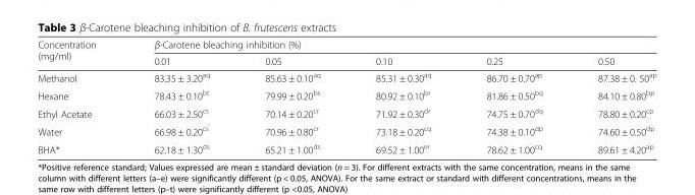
<table><thead><tr><td rowspan="2">Concentration (mg/ml)</td><td colspan="5">β-Carotene bleaching inhibition (%)</td></tr><tr><td>0.01</td><td>0.05</td><td>0.10</td><td>0.25</td><td>0.50</td></tr></thead><tbody><tr><td>Methanol</td><td>83.35 ± 3.20<sup>aq</sup></td><td>85.63 ± 0.10<sup>aq</sup></td><td>85.31 ± 0.30<sup>aq</sup></td><td>86.70 ± 0.70<sup>ap</sup></td><td>87.38 ± 0. 50<sup>ap</sup></td></tr><tr><td>Hexane</td><td>78.43 ± 0.10<sup>bt</sup></td><td>79.99 ± 0.20<sup>bs</sup></td><td>80.92 ± 0.10<sup>br</sup></td><td>81.86 ± 0.50<sup>bq</sup></td><td>84.10 ± 0.80<sup>bp</sup></td></tr><tr><td>Ethyl Acetate</td><td>66.03 ± 2.50<sup>cs</sup></td><td>70.14 ± 0.20<sup>cr</sup></td><td>71.92 ± 0.30<sup>dr</sup></td><td>74.75 ± 0.70<sup>dq</sup></td><td>78.80 ± 0.20<sup>cp</sup></td></tr><tr><td>Water</td><td>66.98 ± 0.20<sup>cs</sup></td><td>70.96 ± 0.80<sup>cr</sup></td><td>73.18 ± 0.20<sup>cq</sup></td><td>74.38 ± 0.10<sup>dp</sup></td><td>74.60 ± 0.50<sup>dp</sup></td></tr><tr><td>BHA*</td><td>62.18 ± 1.30<sup>ds</sup></td><td>65.21 ± 1.00<sup>ds</sup></td><td>69.52 ± 1.00<sup>er</sup></td><td>78.62 ± 1.00<sup>cq</sup></td><td>89.61 ± 4.20<sup>ap</sup></td></tr></tbody></table>